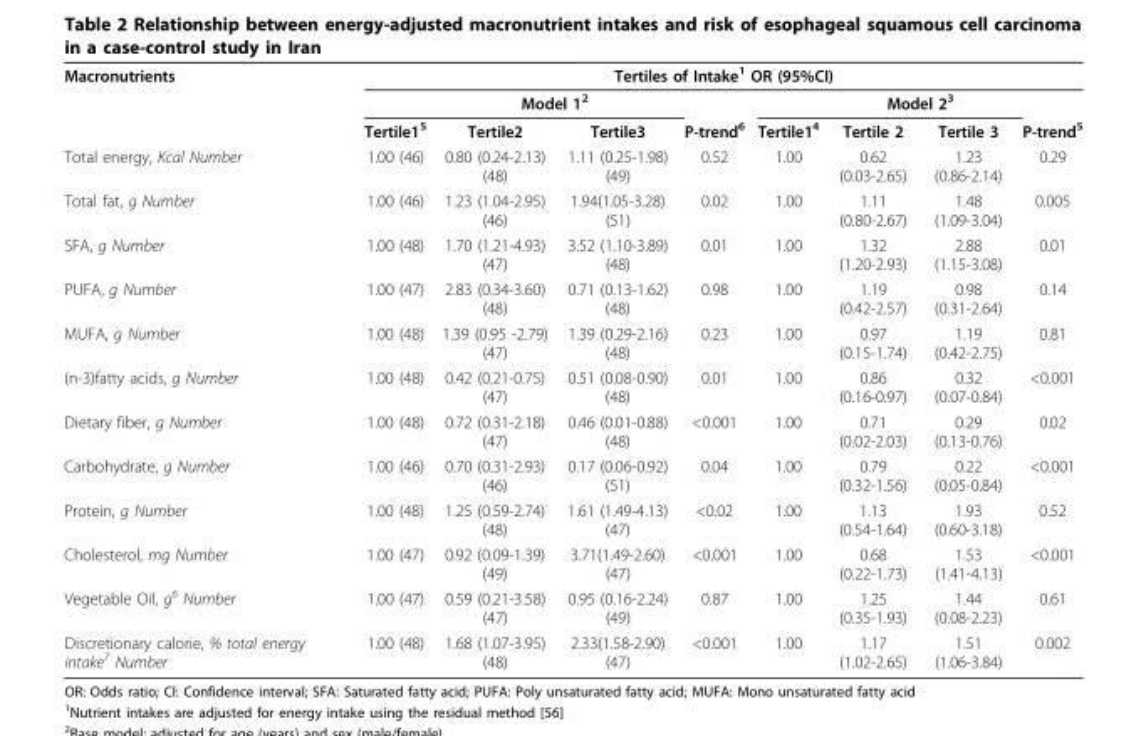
<table><tbody><tr><td rowspan="3">Macronutrients</td><td colspan="8">Tertiles of Intake<sup>1</sup> OR (95%CI)</td></tr><tr><td colspan="4">Model 1<sup>2</sup></td><td colspan="4">Model 2<sup>3</sup></td></tr><tr><td>Tertile1<sup>5</sup></td><td>Tertile2</td><td>Tertile3</td><td>P-trend<sup>6</sup></td><td>Tertile1<sup>4</sup></td><td>Tertile 2</td><td>Tertile 3</td><td>P-trend<sup>5</sup></td></tr><tr><td>Total energy, Kcal Number</td><td>1.00 (46)</td><td>0.80 (0.24-2.13) (48)</td><td>1.11 (0.25-1.98) (49)</td><td>0.52</td><td>1.00</td><td>0.62 (0.03-2.65)</td><td>1.23 (0.86-2.14)</td><td>0.29</td></tr><tr><td>Total fat, g Number</td><td>1.00 (46)</td><td>1.23 (1.04-2.95) (46)</td><td>1.94(1.05-3.28) (51)</td><td>0.02</td><td>1.00</td><td>1.11 (0.80-2.67)</td><td>1.48 (1.09-3.04)</td><td>0.005</td></tr><tr><td>SFA, g Number</td><td>1.00 (48)</td><td>1.70 (1.21-4.93) (47)</td><td>3.52 (1.10-3.89) (48)</td><td>0.01</td><td>1.00</td><td>1.32 (1.20-2.93)</td><td>2.88 (1.15-3.08)</td><td>0.01</td></tr><tr><td>PUFA, g Number</td><td>1.00 (47)</td><td>2.83 (0.34-3.60) (48)</td><td>0.71 (0.13-1.62) (48)</td><td>0.98</td><td>1.00</td><td>1.19 (0.42-2.57)</td><td>0.98 (0.31-2.64)</td><td>0.14</td></tr><tr><td>MUFA, g Number</td><td>1.00 (48)</td><td>1.39 (0.95 -2.79) (47)</td><td>1.39 (0.29-2.16) (48)</td><td>0.23</td><td>1.00</td><td>0.97 (0.15-1.74)</td><td>1.19 (0.42-2.75)</td><td>0.81</td></tr><tr><td>(n-3)fatty acids, g Number</td><td>1.00 (48)</td><td>0.42 (0.21-0.75) (47)</td><td>0.51 (0.08-0.90) (48)</td><td>0.01</td><td>1.00</td><td>0.86 (0.16-0.97)</td><td>0.32 (0.07-0.84)</td><td>&lt;0.001</td></tr><tr><td>Dietary fiber, g Number</td><td>1.00 (48)</td><td>0.72 (0.31-2.18) (47)</td><td>0.46 (0.01-0.88) (48)</td><td>&lt;0.001</td><td>1.00</td><td>0.71 (0.02-2.03)</td><td>0.29 (0.13-0.76)</td><td>0.02</td></tr><tr><td>Carbohydrate, g Number</td><td>1.00 (46)</td><td>0.70 (0.31-2.93) (46)</td><td>0.17 (0.06-0.92) (51)</td><td>0.04</td><td>1.00</td><td>0.79 (0.32-1.56)</td><td>0.22 (0.05-0.84)</td><td>&lt;0.001</td></tr><tr><td>Protein, g Number</td><td>1.00 (48)</td><td>1.25 (0.59-2.74) (48)</td><td>1.61 (1.49-4.13) (47)</td><td>&lt;0.02</td><td>1.00</td><td>1.13 (0.54-1.64)</td><td>1.93 (0.60-3.18)</td><td>0.52</td></tr><tr><td>Cholesterol, mg Number</td><td>1.00 (47)</td><td>0.92 (0.09-1.39) (49)</td><td>3.71(1.49-2.60) (47)</td><td>&lt;0.001</td><td>1.00</td><td>0.68 (0.22-1.73)</td><td>1.53 (1.41-4.13)</td><td>&lt;0.001</td></tr><tr><td>Vegetable Oil, g<sup>6</sup> Number</td><td>1.00 (47)</td><td>0.59 (0.21-3.58) (47)</td><td>0.95 (0.16-2.24) (49)</td><td>0.87</td><td>1.00</td><td>1.25 (0.35-1.93)</td><td>1.44 (0.08-2.23)</td><td>0.61</td></tr><tr><td>Discretionary calorie, % total energy intake<sup>7</sup> Number</td><td>1.00 (48)</td><td>1.68 (1.07-3.95) (48)</td><td>2.33(1.58-2.90) (47)</td><td>&lt;0.001</td><td>1.00</td><td>1.17 (1.02-2.65)</td><td>1.51 (1.06-3.84)</td><td>0.002</td></tr></tbody></table>